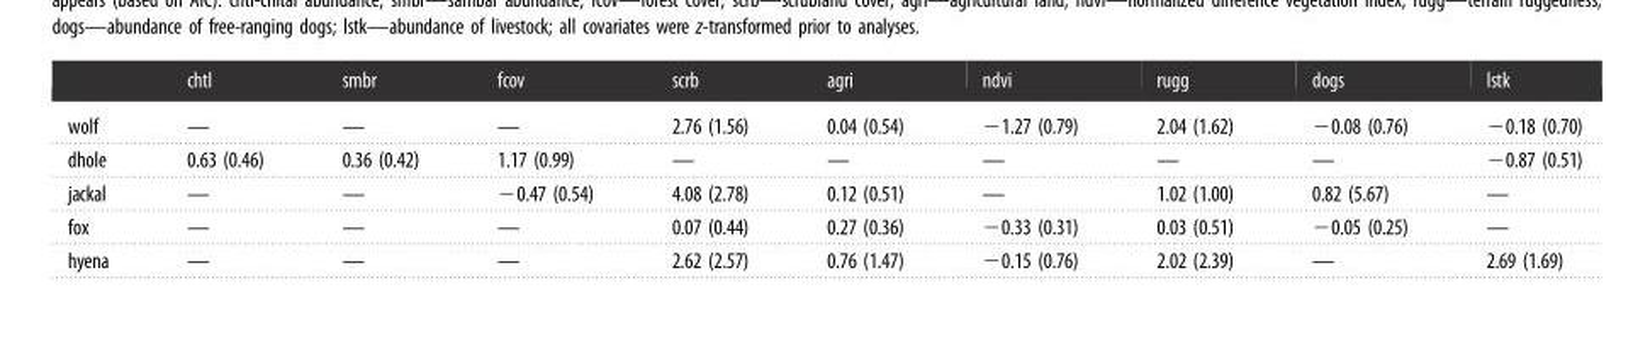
<table><thead><tr><td></td><td>chtl</td><td>smbr</td><td>fcov</td><td>scrb</td><td>agri</td><td>ndvi</td><td>rugg</td><td>dogs</td><td>lstk</td></tr></thead><tbody><tr><td>wolf</td><td>—</td><td>—</td><td>—</td><td>2.76 (1.56)</td><td>0.04 (0.54)</td><td>−1.27 (0.79)</td><td>2.04 (1.62)</td><td>−0.08 (0.76)</td><td>−0.18 (0.70)</td></tr><tr><td>dhole</td><td>0.63 (0.46)</td><td>0.36 (0.42)</td><td>1.17 (0.99)</td><td>—</td><td>—</td><td>—</td><td>—</td><td>—</td><td>−0.87 (0.51)</td></tr><tr><td>jackal</td><td>—</td><td>—</td><td>−0.47 (0.54)</td><td>4.08 (2.78)</td><td>0.12 (0.51)</td><td>—</td><td>1.02 (1.00)</td><td>0.82 (5.67)</td><td>—</td></tr><tr><td>fox</td><td>—</td><td>—</td><td>—</td><td>0.07 (0.44)</td><td>0.27 (0.36)</td><td>−0.33 (0.31)</td><td>0.03 (0.51)</td><td>−0.05 (0.25)</td><td>—</td></tr><tr><td>hyena</td><td>—</td><td>—</td><td>—</td><td>2.62 (2.57)</td><td>0.76 (1.47)</td><td>−0.15 (0.76)</td><td>2.02 (2.39)</td><td>—</td><td>2.69 (1.69)</td></tr></tbody></table>